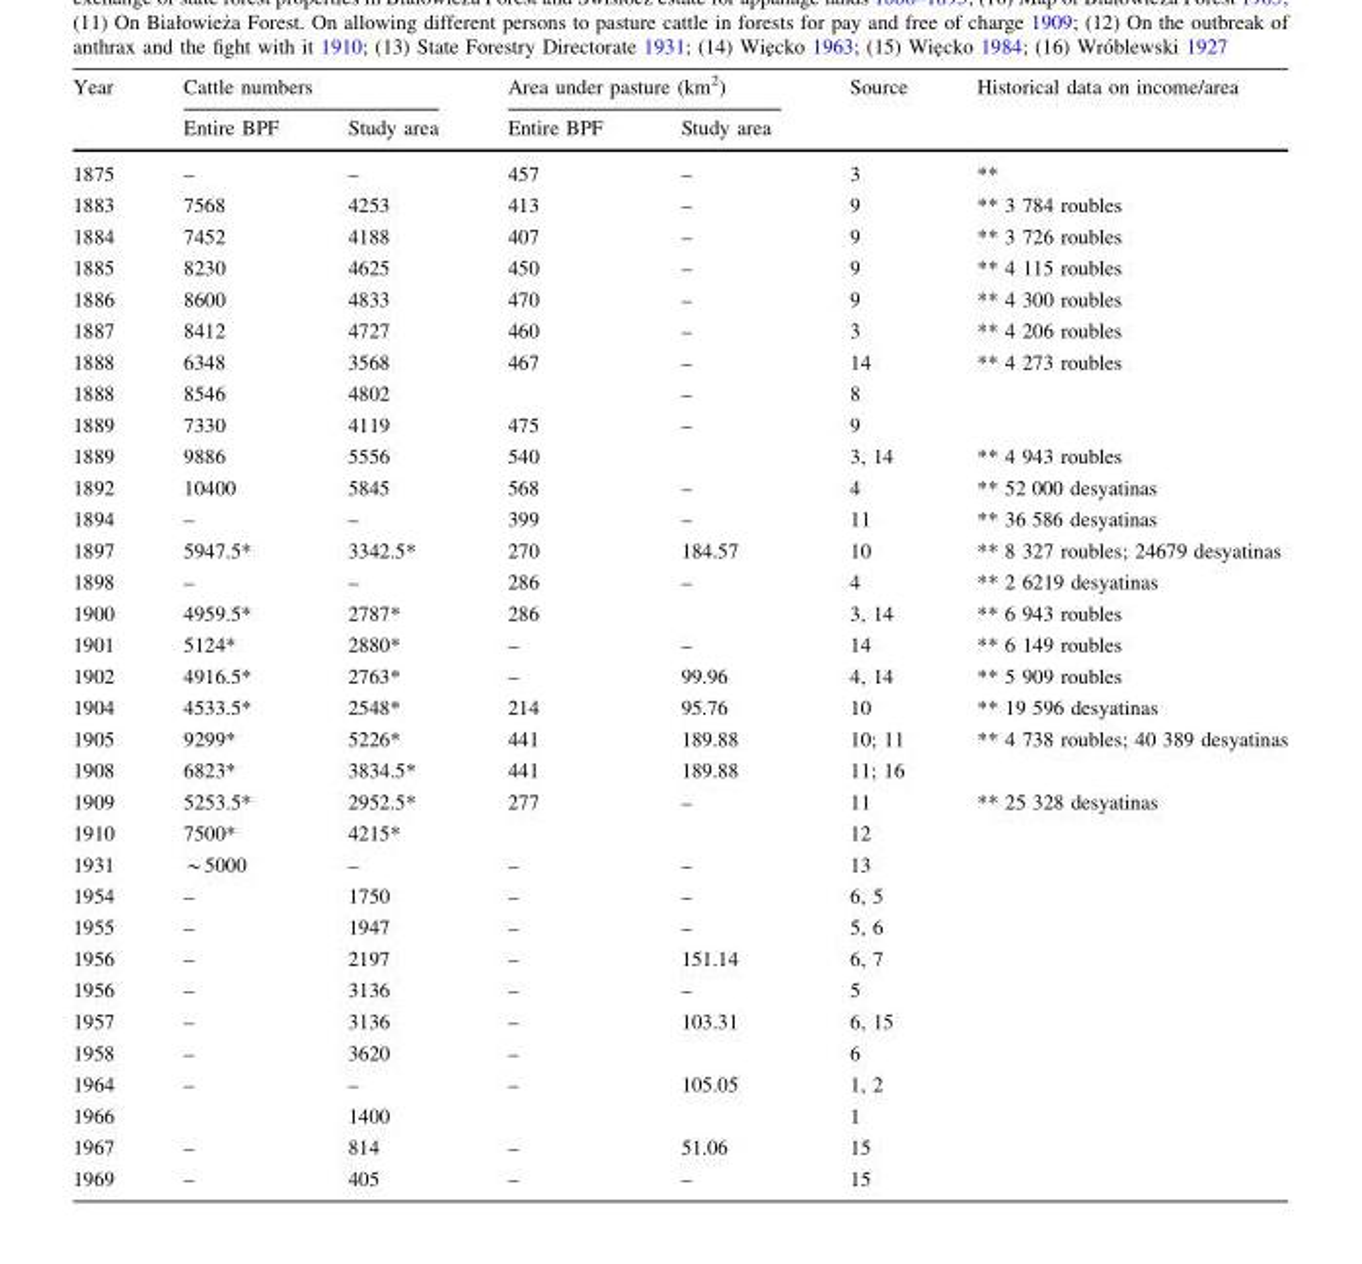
<table><thead><tr><td rowspan="2">Year</td><td colspan="2">Cattle numbers</td><td colspan="2">Area under pasture (km<sup>2</sup>)</td><td rowspan="2">Source</td><td rowspan="2">Historical data on income/area</td></tr><tr><td>Entire BPF</td><td>Study area</td><td>Entire BPF</td><td>Study area</td></tr></thead><tbody><tr><td>1875</td><td>–</td><td>–</td><td>457</td><td>–</td><td>3</td><td>**</td></tr><tr><td>1883</td><td>7568</td><td>4253</td><td>413</td><td>–</td><td>9</td><td>** 3 784 roubles</td></tr><tr><td>1884</td><td>7452</td><td>4188</td><td>407</td><td>–</td><td>9</td><td>** 3 726 roubles</td></tr><tr><td>1885</td><td>8230</td><td>4625</td><td>450</td><td>–</td><td>9</td><td>** 4 115 roubles</td></tr><tr><td>1886</td><td>8600</td><td>4833</td><td>470</td><td>–</td><td>9</td><td>** 4 300 roubles</td></tr><tr><td>1887</td><td>8412</td><td>4727</td><td>460</td><td>–</td><td>3</td><td>** 4 206 roubles</td></tr><tr><td>1888</td><td>6348</td><td>3568</td><td>467</td><td>–</td><td>14</td><td>** 4 273 roubles</td></tr><tr><td>1888</td><td>8546</td><td>4802</td><td></td><td>–</td><td>8</td><td></td></tr><tr><td>1889</td><td>7330</td><td>4119</td><td>475</td><td>–</td><td>9</td><td></td></tr><tr><td>1889</td><td>9886</td><td>5556</td><td>540</td><td></td><td>3, 14</td><td>** 4 943 roubles</td></tr><tr><td>1892</td><td>10400</td><td>5845</td><td>568</td><td>–</td><td>4</td><td>** 52 000 desyatinas</td></tr><tr><td>1894</td><td>–</td><td>–</td><td>399</td><td>–</td><td>11</td><td>** 36 586 desyatinas</td></tr><tr><td>1897</td><td>5947.5*</td><td>3342.5*</td><td>270</td><td>184.57</td><td>10</td><td>** 8 327 roubles; 24679 desyatinas</td></tr><tr><td>1898</td><td>–</td><td>–</td><td>286</td><td>–</td><td>4</td><td>** 2 6219 desyatinas</td></tr><tr><td>1900</td><td>4959.5*</td><td>2787*</td><td>286</td><td></td><td>3, 14</td><td>** 6 943 roubles</td></tr><tr><td>1901</td><td>5124*</td><td>2880*</td><td>–</td><td>–</td><td>14</td><td>** 6 149 roubles</td></tr><tr><td>1902</td><td>4916.5*</td><td>2763*</td><td>–</td><td>99.96</td><td>4, 14</td><td>** 5 909 roubles</td></tr><tr><td>1904</td><td>4533.5*</td><td>2548*</td><td>214</td><td>95.76</td><td>10</td><td>** 19 596 desyatinas</td></tr><tr><td>1905</td><td>9299*</td><td>5226*</td><td>441</td><td>189.88</td><td>10; 11</td><td>** 4 738 roubles; 40 389 desyatinas</td></tr><tr><td>1908</td><td>6823*</td><td>3834.5*</td><td>441</td><td>189.88</td><td>11; 16</td><td></td></tr><tr><td>1909</td><td>5253.5*</td><td>2952.5*</td><td>277</td><td>–</td><td>11</td><td>** 25 328 desyatinas</td></tr><tr><td>1910</td><td>7500*</td><td>4215*</td><td></td><td></td><td>12</td><td></td></tr><tr><td>1931</td><td>*5000</td><td>–</td><td>–</td><td>–</td><td>13</td><td></td></tr><tr><td>1954</td><td>–</td><td>1750</td><td>–</td><td>–</td><td>6, 5</td><td></td></tr><tr><td>1955</td><td>–</td><td>1947</td><td>–</td><td>–</td><td>5, 6</td><td></td></tr><tr><td>1956</td><td>–</td><td>2197</td><td>–</td><td>151.14</td><td>6, 7</td><td></td></tr><tr><td>1956</td><td>–</td><td>3136</td><td>–</td><td>–</td><td>5</td><td></td></tr><tr><td>1957</td><td>–</td><td>3136</td><td>–</td><td>103.31</td><td>6, 15</td><td></td></tr><tr><td>1958</td><td>–</td><td>3620</td><td>–</td><td></td><td>6</td><td></td></tr><tr><td>1964</td><td>–</td><td>–</td><td>–</td><td>105.05</td><td>1, 2</td><td></td></tr><tr><td>1966</td><td></td><td>1400</td><td></td><td></td><td>1</td><td></td></tr><tr><td>1967</td><td>–</td><td>814</td><td>–</td><td>51.06</td><td>15</td><td></td></tr><tr><td>1969</td><td>–</td><td>405</td><td>–</td><td>–</td><td>15</td><td></td></tr></tbody></table>